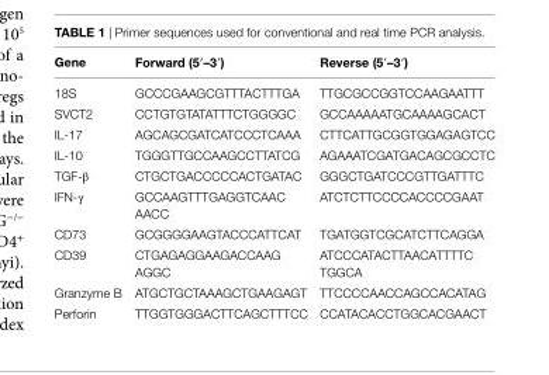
<table><thead><tr><td>gene</td><td>Forward (5′–3′)</td><td>reverse (5′–3′)</td></tr></thead><tbody><tr><td>18S</td><td>GCCCGAAGCGTTTACTTTGA</td><td>TTGCGCCGGTCCAAGAATTT</td></tr><tr><td>SVCT2</td><td>CCTGTGTATATTTCTGGGGC</td><td>GCCAAAAATGCAAAAGCACT</td></tr><tr><td>IL-17</td><td>AGCAGCGATCATCCCTCAAA</td><td>CTTCATTGCGGTGGAGAGTCC</td></tr><tr><td>IL-10</td><td>TGGGTTGCCAAGCCTTATCG</td><td>AGAAATCGATGACAGCGCCTC</td></tr><tr><td>TGF-β</td><td>CTGCTGACCCCCACTGATAC</td><td>GGGCTGATCCCGTTGATTTC</td></tr><tr><td>IFN-γ</td><td>GCCAAGTTTGAGGTCAAC AACC</td><td>ATCTCTTCCCCACCCCGAAT</td></tr><tr><td>CD73</td><td>GCGGGGAAGTACCCATTCAT</td><td>TGATGGTCGCATCTTCAGGA</td></tr><tr><td>CD39</td><td>CTGAGAGGAAGACCAAG AGGC</td><td>ATCCCATACTTAACATTTTC TGGCA</td></tr><tr><td>Granzyme B</td><td>ATGCTGCTAAAGCTGAAGAGT</td><td>TTCCCCAACCAGCCACATAG</td></tr><tr><td>Perforin</td><td>TTGGTGGGACTTCAGCTTTCC</td><td>CCATACACCTGGCACGAACT</td></tr></tbody></table>